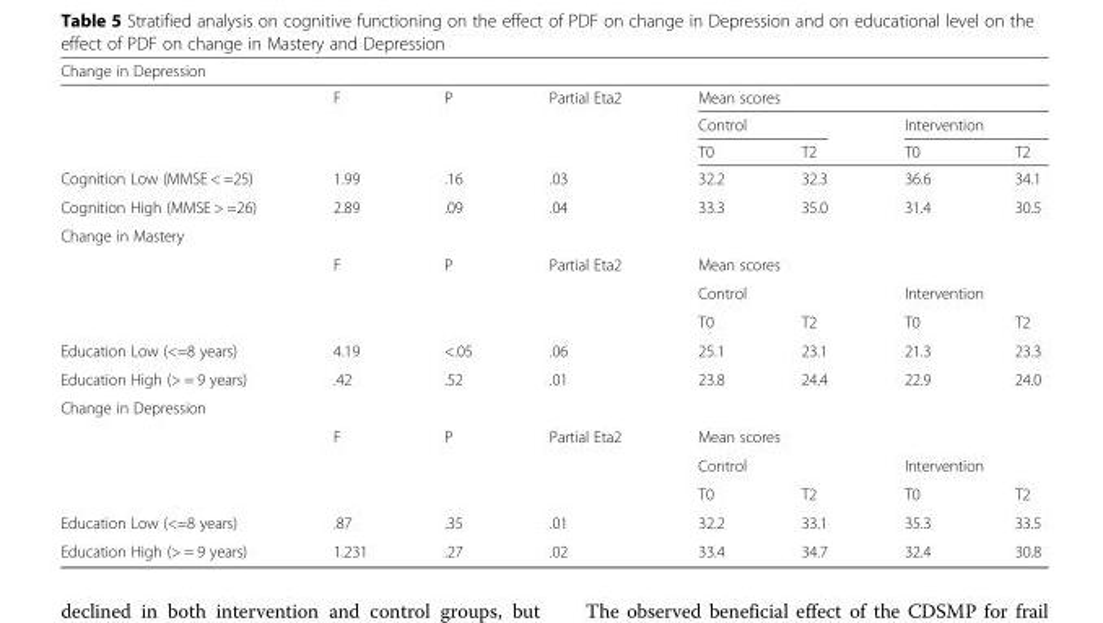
<table><thead><tr><td colspan="8">Change in Depression</td></tr><tr><td rowspan="3"></td><td rowspan="3">F</td><td rowspan="3">P</td><td rowspan="3">Partial Eta2</td><td colspan="4">Mean scores</td></tr><tr><td colspan="2">Control</td><td colspan="2">Intervention</td></tr><tr><td>T0</td><td>T2</td><td>T0</td><td>T2</td></tr></thead><tbody><tr><td>Cognition Low (MMSE &lt; =25)</td><td>1.99</td><td>.16</td><td>.03</td><td>32.2</td><td>32.3</td><td>36.6</td><td>34.1</td></tr><tr><td>Cognition High (MMSE &gt; =26)</td><td>2.89</td><td>.09</td><td>.04</td><td>33.3</td><td>35.0</td><td>31.4</td><td>30.5</td></tr><tr><td colspan="8">Change in Mastery</td></tr><tr><td rowspan="3"></td><td rowspan="3">F</td><td rowspan="3">P</td><td rowspan="3">Partial Eta2</td><td colspan="4">Mean scores</td></tr><tr><td colspan="2">Control</td><td colspan="2">Intervention</td></tr><tr><td>T0</td><td>T2</td><td>T0</td><td>T2</td></tr><tr><td>Education Low (&lt;=8 years)</td><td>4.19</td><td>&lt;.05</td><td>.06</td><td>25.1</td><td>23.1</td><td>21.3</td><td>23.3</td></tr><tr><td>Education High (&gt; = 9 years)</td><td>.42</td><td>.52</td><td>.01</td><td>23.8</td><td>24.4</td><td>22.9</td><td>24.0</td></tr><tr><td colspan="8">Change in Depression</td></tr><tr><td rowspan="3"></td><td rowspan="3">F</td><td rowspan="3">P</td><td rowspan="3">Partial Eta2</td><td colspan="4">Mean scores</td></tr><tr><td colspan="2">Control</td><td colspan="2">Intervention</td></tr><tr><td>T0</td><td>T2</td><td>T0</td><td>T2</td></tr><tr><td>Education Low (&lt;=8 years)</td><td>.87</td><td>.35</td><td>.01</td><td>32.2</td><td>33.1</td><td>35.3</td><td>33.5</td></tr><tr><td>Education High (&gt; = 9 years)</td><td>1.231</td><td>.27</td><td>.02</td><td>33.4</td><td>34.7</td><td>32.4</td><td>30.8</td></tr></tbody></table>